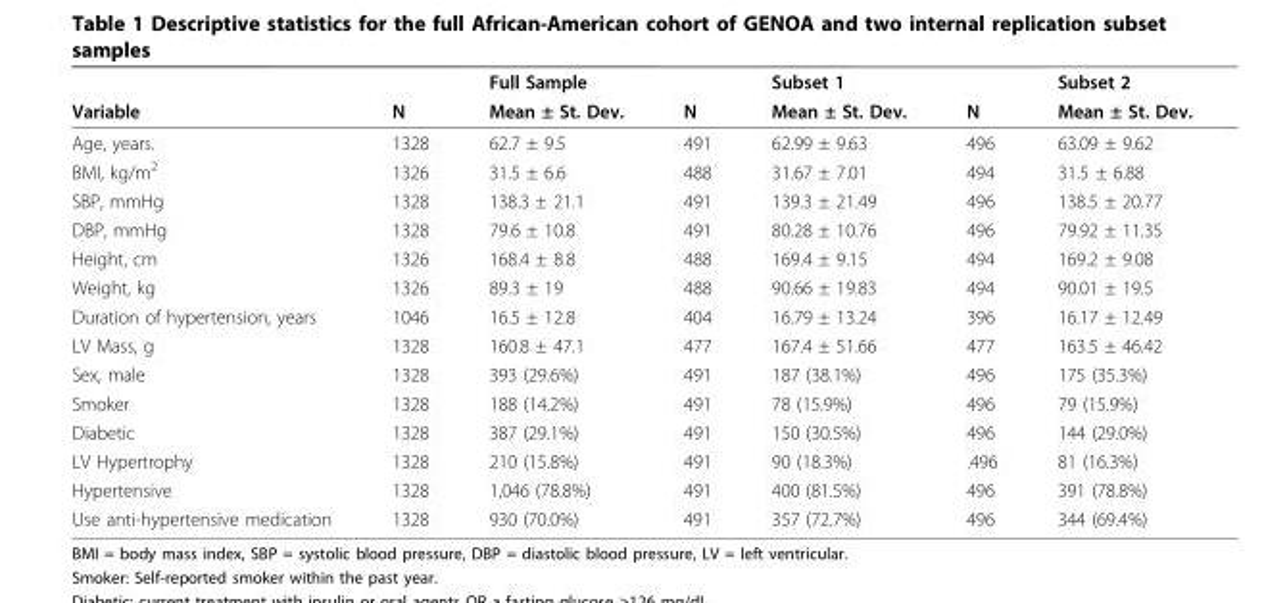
<table><thead><tr><td rowspan="2">Variable</td><td rowspan="2">N</td><td rowspan="2">Full Sample Mean ± St. Dev.</td><td rowspan="2">N</td><td rowspan="2">Subset 1 Mean ± St. Dev.</td><td rowspan="2">N</td><td rowspan="2">Subset 2 Mean ± St. Dev.</td></tr><tr></tr></thead><tbody><tr><td>Age, years.</td><td>1328</td><td>62.7 ± 9.5</td><td>491</td><td>62.99 ± 9.63</td><td>496</td><td>63.09 ± 9.62</td></tr><tr><td>BMI, kg/m<sup>2</sup></td><td>1326</td><td>31.5 ± 6.6</td><td>488</td><td>31.67 ± 7.01</td><td>494</td><td>31.5 ± 6.88</td></tr><tr><td>SBP, mmHg</td><td>1328</td><td>138.3 ± 21.1</td><td>491</td><td>139.3 ± 21.49</td><td>496</td><td>138.5 ± 20.77</td></tr><tr><td>DBP, mmHg</td><td>1328</td><td>79.6 ± 10.8</td><td>491</td><td>80.28 ± 10.76</td><td>496</td><td>79.92 ± 11.35</td></tr><tr><td>Height, cm</td><td>1326</td><td>168.4 ± 8.8</td><td>488</td><td>169.4 ± 9.15</td><td>494</td><td>169.2 ± 9.08</td></tr><tr><td>Weight, kg</td><td>1326</td><td>89.3 ± 19</td><td>488</td><td>90.66 ± 19.83</td><td>494</td><td>90.01 ± 19.5</td></tr><tr><td>Duration of hypertension, years</td><td>1046</td><td>16.5 ± 12.8</td><td>404</td><td>16.79 ± 13.24</td><td>396</td><td>16.17 ± 12.49</td></tr><tr><td>LV Mass, g</td><td>1328</td><td>160.8 ± 47.1</td><td>477</td><td>167.4 ± 51.66</td><td>477</td><td>163.5 ± 46.42</td></tr><tr><td>Sex, male</td><td>1328</td><td>393 (29.6%)</td><td>491</td><td>187 (38.1%)</td><td>496</td><td>175 (35.3%)</td></tr><tr><td>Smoker</td><td>1328</td><td>188 (14.2%)</td><td>491</td><td>78 (15.9%)</td><td>496</td><td>79 (15.9%)</td></tr><tr><td>Diabetic</td><td>1328</td><td>387 (29.1%)</td><td>491</td><td>150 (30.5%)</td><td>496</td><td>144 (29.0%)</td></tr><tr><td>LV Hypertrophy</td><td>1328</td><td>210 (15.8%)</td><td>491</td><td>90 (18.3%)</td><td>.496</td><td>81 (16.3%)</td></tr><tr><td>Hypertensive</td><td>1328</td><td>1,046 (78.8%)</td><td>491</td><td>400 (81.5%)</td><td>496</td><td>391 (78.8%)</td></tr><tr><td>Use anti-hypertensive medication</td><td>1328</td><td>930 (70.0%)</td><td>491</td><td>357 (72.7%)</td><td>496</td><td>344 (69.4%)</td></tr></tbody></table>